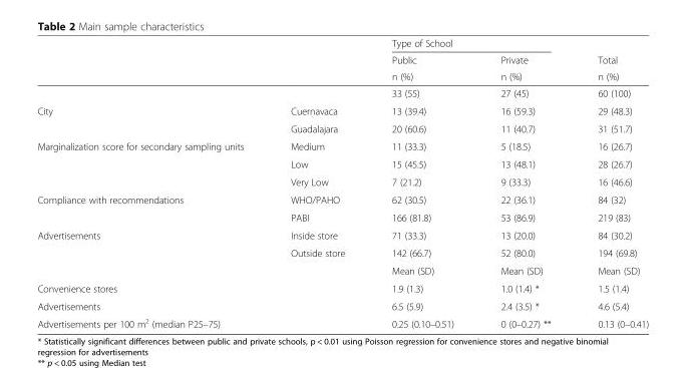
<table><thead><tr><td rowspan="3"></td><td rowspan="3"></td><td colspan="2">Type of School</td><td rowspan="3">Total n (%)</td></tr><tr><td rowspan="2">Public n (%)</td><td rowspan="2">Private n (%)</td></tr><tr></tr></thead><tbody><tr><td></td><td></td><td>33 (55)</td><td>27 (45)</td><td>60 (100)</td></tr><tr><td rowspan="2">City</td><td>Cuernavaca</td><td>13 (39.4)</td><td>16 (59.3)</td><td>29 (48.3)</td></tr><tr><td>Guadalajara</td><td>20 (60.6)</td><td>11 (40.7)</td><td>31 (51.7)</td></tr><tr><td rowspan="3">Marginalization score for secondary sampling units</td><td>Medium</td><td>11 (33.3)</td><td>5 (18.5)</td><td>16 (26.7)</td></tr><tr><td>Low</td><td>15 (45.5)</td><td>13 (48.1)</td><td>28 (26.7)</td></tr><tr><td>Very Low</td><td>7 (21.2)</td><td>9 (33.3)</td><td>16 (46.6)</td></tr><tr><td rowspan="2">Compliance with recommendations</td><td>WHO/PAHO</td><td>62 (30.5)</td><td>22 (36.1)</td><td>84 (32)</td></tr><tr><td>PABI</td><td>166 (81.8)</td><td>53 (86.9)</td><td>219 (83)</td></tr><tr><td rowspan="3">Advertisements</td><td>Inside store</td><td>71 (33.3)</td><td>13 (20.0)</td><td>84 (30.2)</td></tr><tr><td>Outside store</td><td>142 (66.7)</td><td>52 (80.0)</td><td>194 (69.8)</td></tr><tr><td></td><td>Mean (SD)</td><td>Mean (SD)</td><td>Mean (SD)</td></tr><tr><td colspan="2">Convenience stores</td><td>1.9 (1.3)</td><td>1.0 (1.4) *</td><td>1.5 (1.4)</td></tr><tr><td colspan="2">Advertisements</td><td>6.5 (5.9)</td><td>2.4 (3.5) *</td><td>4.6 (5.4)</td></tr><tr><td colspan="2">Advertisements per 100 m<sup>2</sup> (median P25–75)</td><td>0.25 (0.10–0.51)</td><td>0 (0–0.27) **</td><td>0.13 (0–0.41)</td></tr></tbody></table>